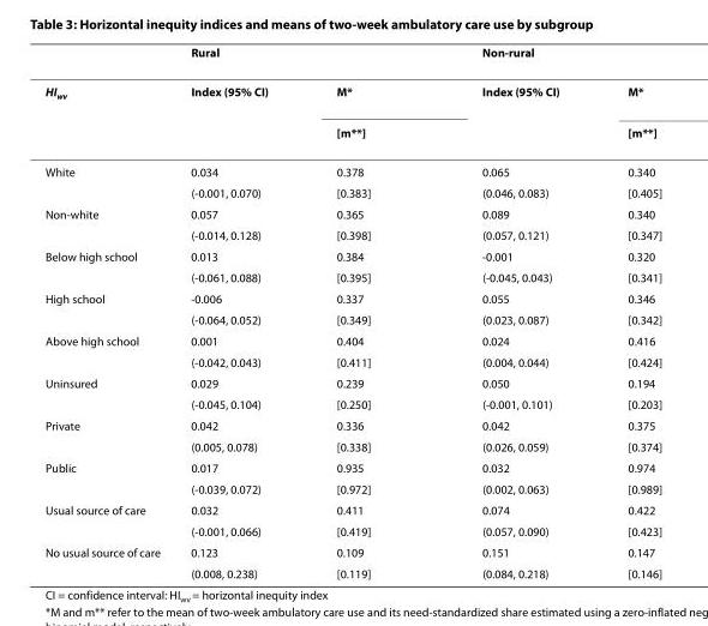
<table><thead><tr><td rowspan="2">HI<sub>wv</sub></td><td colspan="2">Rural</td><td colspan="2">Non-rural</td></tr><tr><td>Index (95% CI)</td><td>M*</td><td>Index (95% CI)</td><td>M*</td></tr></thead><tbody><tr><td></td><td></td><td>[m**]</td><td></td><td>[m**]</td></tr><tr><td rowspan="2">White</td><td>0.034</td><td>0.378</td><td>0.065</td><td>0.340</td></tr><tr><td>(-0.001, 0.070)</td><td>[0.383]</td><td>(0.046, 0.083)</td><td>[0.405]</td></tr><tr><td rowspan="2">Non-white</td><td>0.057</td><td>0.365</td><td>0.089</td><td>0.340</td></tr><tr><td>(-0.014, 0.128)</td><td>[0.398]</td><td>(0.057, 0.121)</td><td>[0.347]</td></tr><tr><td rowspan="2">Below high school</td><td>0.013</td><td>0.384</td><td>-0.001</td><td>0.320</td></tr><tr><td>(-0.061, 0.088)</td><td>[0.395]</td><td>(-0.045, 0.043)</td><td>[0.341]</td></tr><tr><td rowspan="2">High school</td><td>-0.006</td><td>0.337</td><td>0.055</td><td>0.346</td></tr><tr><td>(-0.064, 0.052)</td><td>[0.349]</td><td>(0.023, 0.087)</td><td>[0.342]</td></tr><tr><td rowspan="2">Above high school</td><td>0.001</td><td>0.404</td><td>0.024</td><td>0.416</td></tr><tr><td>(-0.042, 0.043)</td><td>[0.411]</td><td>(0.004, 0.044)</td><td>[0.424]</td></tr><tr><td rowspan="2">Uninsured</td><td>0.029</td><td>0.239</td><td>0.050</td><td>0.194</td></tr><tr><td>(-0.045, 0.104)</td><td>[0.250]</td><td>(-0.001, 0.101)</td><td>[0.203]</td></tr><tr><td rowspan="2">Private</td><td>0.042</td><td>0.336</td><td>0.042</td><td>0.375</td></tr><tr><td>(0.005, 0.078)</td><td>[0.338]</td><td>(0.026, 0.059)</td><td>[0.374]</td></tr><tr><td rowspan="2">Public</td><td>0.017</td><td>0.935</td><td>0.032</td><td>0.974</td></tr><tr><td>(-0.039, 0.072)</td><td>[0.972]</td><td>(0.002, 0.063)</td><td>[0.989]</td></tr><tr><td rowspan="2">Usual source of care</td><td>0.032</td><td>0.411</td><td>0.074</td><td>0.422</td></tr><tr><td>(-0.001, 0.066)</td><td>[0.419]</td><td>(0.057, 0.090)</td><td>[0.423]</td></tr><tr><td rowspan="2">No usual source of care</td><td>0.123</td><td>0.109</td><td>0.151</td><td>0.147</td></tr><tr><td>(0.008, 0.238)</td><td>[0.119]</td><td>(0.084, 0.218)</td><td>[0.146]</td></tr></tbody></table>